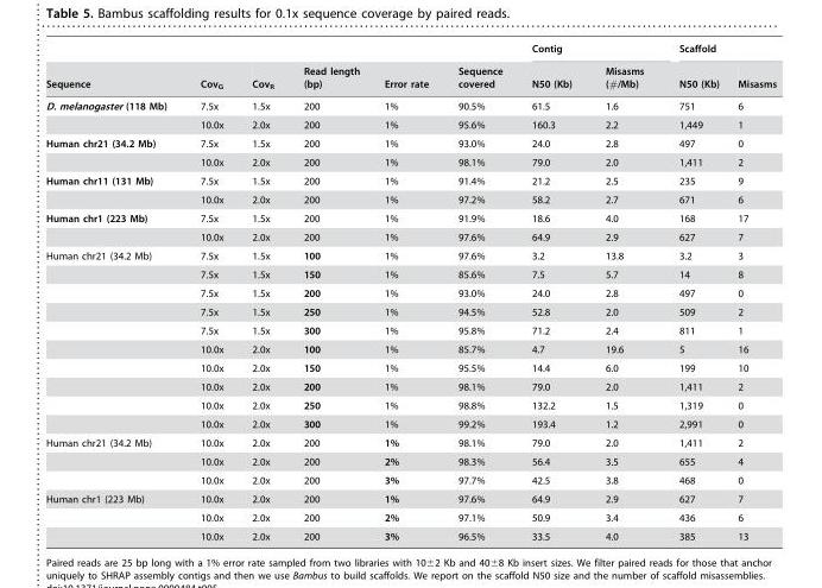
<table><thead><tr><td rowspan="2">Sequence</td><td rowspan="2">Cov<sub>G</sub></td><td rowspan="2">Cov<sub>R</sub></td><td rowspan="2">Read length (bp)</td><td rowspan="2">Error rate</td><td rowspan="2">Sequence covered</td><td colspan="2">Contig</td><td colspan="2">Scaffold</td></tr><tr><td>N50 (Kb)</td><td>Misasms (#/Mb)</td><td>N50 (Kb)</td><td>Misasms</td></tr></thead><tbody><tr><td rowspan="2">D. melanogaster (118 Mb)</td><td>7.5x</td><td>1.5x</td><td>200</td><td>1%</td><td>90.5%</td><td>61.5</td><td>1.6</td><td>751</td><td>6</td></tr><tr><td>10.0x</td><td>2.0x</td><td>200</td><td>1%</td><td>95.6%</td><td>160.3</td><td>2.2</td><td>1,449</td><td>1</td></tr><tr><td rowspan="2">Human chr21 (34.2 Mb)</td><td>7.5x</td><td>1.5x</td><td>200</td><td>1%</td><td>93.0%</td><td>24.0</td><td>2.8</td><td>497</td><td>0</td></tr><tr><td>10.0x</td><td>2.0x</td><td>200</td><td>1%</td><td>98.1%</td><td>79.0</td><td>2.0</td><td>1,411</td><td>2</td></tr><tr><td rowspan="2">Human chr11 (131 Mb)</td><td>7.5x</td><td>1.5x</td><td>200</td><td>1%</td><td>91.4%</td><td>21.2</td><td>2.5</td><td>235</td><td>9</td></tr><tr><td>10.0x</td><td>2.0x</td><td>200</td><td>1%</td><td>97.2%</td><td>58.2</td><td>2.7</td><td>671</td><td>6</td></tr><tr><td rowspan="2">Human chr1 (223 Mb)</td><td>7.5x</td><td>1.5x</td><td>200</td><td>1%</td><td>91.9%</td><td>18.6</td><td>4.0</td><td>168</td><td>17</td></tr><tr><td>10.0x</td><td>2.0x</td><td>200</td><td>1%</td><td>97.6%</td><td>64.9</td><td>2.9</td><td>627</td><td>7</td></tr><tr><td rowspan="10">Human chr21 (34.2 Mb)</td><td>7.5x</td><td>1.5x</td><td>100</td><td>1%</td><td>97.6%</td><td>3.2</td><td>13.8</td><td>3.2</td><td>3</td></tr><tr><td>7.5x</td><td>1.5x</td><td>150</td><td>1%</td><td>85.6%</td><td>7.5</td><td>5.7</td><td>14</td><td>8</td></tr><tr><td>7.5x</td><td>1.5x</td><td>200</td><td>1%</td><td>93.0%</td><td>24.0</td><td>2.8</td><td>497</td><td>0</td></tr><tr><td>7.5x</td><td>1.5x</td><td>250</td><td>1%</td><td>94.5%</td><td>52.8</td><td>2.0</td><td>509</td><td>2</td></tr><tr><td>7.5x</td><td>1.5x</td><td>300</td><td>1%</td><td>95.8%</td><td>71.2</td><td>2.4</td><td>811</td><td>1</td></tr><tr><td>10.0x</td><td>2.0x</td><td>100</td><td>1%</td><td>85.7%</td><td>4.7</td><td>19.6</td><td>5</td><td>16</td></tr><tr><td>10.0x</td><td>2.0x</td><td>150</td><td>1%</td><td>95.5%</td><td>14.4</td><td>6.0</td><td>199</td><td>10</td></tr><tr><td>10.0x</td><td>2.0x</td><td>200</td><td>1%</td><td>98.1%</td><td>79.0</td><td>2.0</td><td>1,411</td><td>2</td></tr><tr><td>10.0x</td><td>2.0x</td><td>250</td><td>1%</td><td>98.8%</td><td>132.2</td><td>1.5</td><td>1,319</td><td>0</td></tr><tr><td>10.0x</td><td>2.0x</td><td>300</td><td>1%</td><td>99.2%</td><td>193.4</td><td>1.2</td><td>2,991</td><td>0</td></tr><tr><td rowspan="3">Human chr21 (34.2 Mb)</td><td>10.0x</td><td>2.0x</td><td>200</td><td>1%</td><td>98.1%</td><td>79.0</td><td>2.0</td><td>1,411</td><td>2</td></tr><tr><td>10.0x</td><td>2.0x</td><td>200</td><td>2%</td><td>98.3%</td><td>56.4</td><td>3.5</td><td>655</td><td>4</td></tr><tr><td>10.0x</td><td>2.0x</td><td>200</td><td>3%</td><td>97.7%</td><td>42.5</td><td>3.8</td><td>468</td><td>0</td></tr><tr><td rowspan="3">Human chr1 (223 Mb)</td><td>10.0x</td><td>2.0x</td><td>200</td><td>1%</td><td>97.6%</td><td>64.9</td><td>2.9</td><td>627</td><td>7</td></tr><tr><td>10.0x</td><td>2.0x</td><td>200</td><td>2%</td><td>97.1%</td><td>50.9</td><td>3.4</td><td>436</td><td>6</td></tr><tr><td>10.0x</td><td>2.0x</td><td>200</td><td>3%</td><td>96.5%</td><td>33.5</td><td>4.0</td><td>385</td><td>13</td></tr></tbody></table>